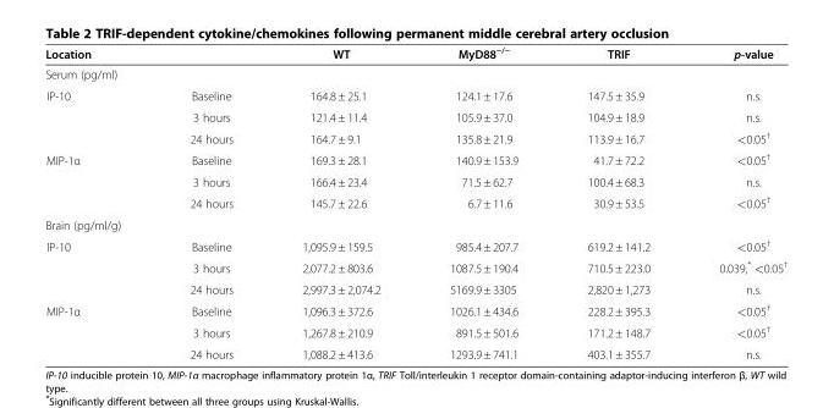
<table><thead><tr><td>Location</td><td></td><td>WT</td><td>MyD88<sup>−/−</sup></td><td>TRIF</td><td>p-value</td></tr></thead><tbody><tr><td colspan="6">Serum (pg/ml)</td></tr><tr><td rowspan="3">IP-10</td><td>Baseline</td><td>164.8 ± 25.1</td><td>124.1 ± 17.6</td><td>147.5 ± 35.9</td><td>n.s.</td></tr><tr><td>3 hours</td><td>121.4 ± 11.4</td><td>105.9 ± 37.0</td><td>104.9 ± 18.9</td><td>n.s.</td></tr><tr><td>24 hours</td><td>164.7 ± 9.1</td><td>135.8 ± 21.9</td><td>113.9 ± 16.7</td><td>&lt;0.05<sup>†</sup></td></tr><tr><td rowspan="3">MIP-1α</td><td>Baseline</td><td>169.3 ± 28.1</td><td>140.9 ± 153.9</td><td>41.7 ± 72.2</td><td>&lt;0.05<sup>†</sup></td></tr><tr><td>3 hours</td><td>166.4 ± 23.4</td><td>71.5 ± 62.7</td><td>100.4 ± 68.3</td><td>n.s.</td></tr><tr><td>24 hours</td><td>145.7 ± 22.6</td><td>6.7 ± 11.6</td><td>30.9 ± 53.5</td><td>&lt;0.05<sup>†</sup></td></tr><tr><td colspan="6">Brain (pg/ml/g)</td></tr><tr><td rowspan="3">IP-10</td><td>Baseline</td><td>1,095.9 ± 159.5</td><td>985.4 ± 207.7</td><td>619.2 ± 141.2</td><td>&lt;0.05<sup>†</sup></td></tr><tr><td>3 hours</td><td>2,077.2 ± 803.6</td><td>1087.5 ± 190.4</td><td>710.5 ± 223.0</td><td>0.039,* &lt;0.05<sup>†</sup></td></tr><tr><td>24 hours</td><td>2,997.3 ± 2,074.2</td><td>5169.9 ± 3305</td><td>2,820 ± 1,273</td><td>n.s.</td></tr><tr><td rowspan="3">MIP-1α</td><td>Baseline</td><td>1,096.3 ± 372.6</td><td>1026.1 ± 434.6</td><td>228.2 ± 395.3</td><td>&lt;0.05<sup>†</sup></td></tr><tr><td>3 hours</td><td>1,267.8 ± 210.9</td><td>891.5 ± 501.6</td><td>171.2 ± 148.7</td><td>&lt;0.05<sup>†</sup></td></tr><tr><td>24 hours</td><td>1,088.2 ± 413.6</td><td>1293.9 ± 741.1</td><td>403.1 ± 355.7</td><td>n.s.</td></tr></tbody></table>